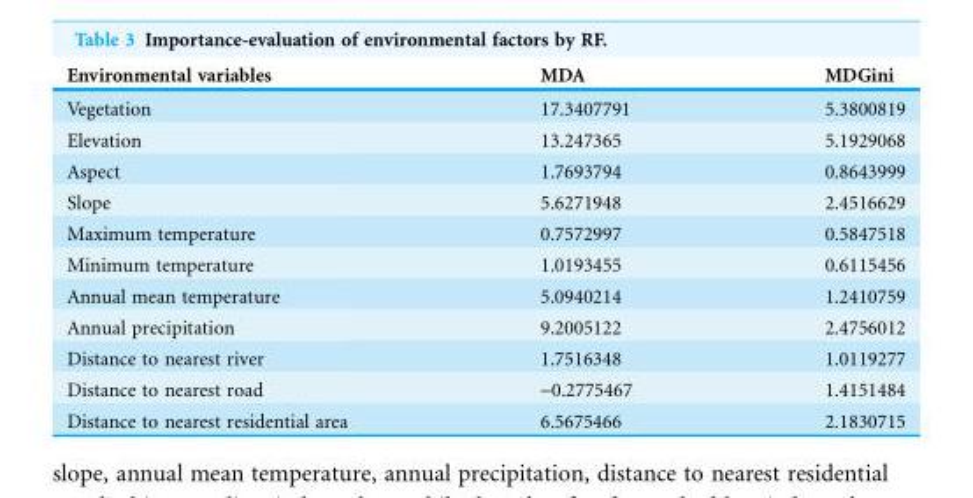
<table><thead><tr><td>Environmental variables</td><td>MDA</td><td>MDGini</td></tr></thead><tbody><tr><td>Vegetation</td><td>17.3407791</td><td>5.3800819</td></tr><tr><td>Elevation</td><td>13.247365</td><td>5.1929068</td></tr><tr><td>Aspect</td><td>1.7693794</td><td>0.8643999</td></tr><tr><td>Slope</td><td>5.6271948</td><td>2.4516629</td></tr><tr><td>Maximum temperature</td><td>0.7572997</td><td>0.5847518</td></tr><tr><td>Minimum temperature</td><td>1.0193455</td><td>0.6115456</td></tr><tr><td>Annual mean temperature</td><td>5.0940214</td><td>1.2410759</td></tr><tr><td>Annual precipitation</td><td>9.2005122</td><td>2.4756012</td></tr><tr><td>Distance to nearest river</td><td>1.7516348</td><td>1.0119277</td></tr><tr><td>Distance to nearest road</td><td>-0.2775467</td><td>1.4151484</td></tr><tr><td>Distance to nearest residential area</td><td>6.5675466</td><td>2.1830715</td></tr></tbody></table>